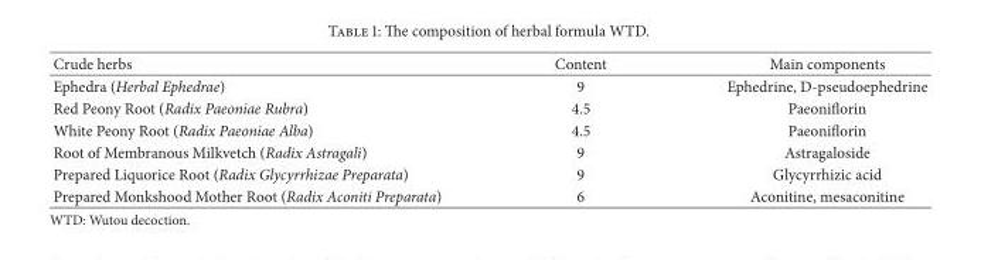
<table><thead><tr><td>Crude herbs</td><td>Content</td><td>Main components</td></tr></thead><tbody><tr><td>Ephedra (Herbal Ephedrae)</td><td>9</td><td>Ephedrine, D-pseudoephedrine</td></tr><tr><td>Red Peony Root (Radix Paeoniae Rubra)</td><td>4.5</td><td>Paeoniflorin</td></tr><tr><td>White Peony Root (Radix Paeoniae Alba)</td><td>4.5</td><td>Paeoniflorin</td></tr><tr><td>Root of Membranous Milkvetch (Radix Astragali)</td><td>9</td><td>Astragaloside</td></tr><tr><td>Prepared Liquorice Root (Radix Glycyrrhizae Preparata)</td><td>9</td><td>Glycyrrhizic acid</td></tr><tr><td>Prepared Monkshood Mother Root (Radix Aconiti Preparata)</td><td>6</td><td>Aconitine, mesaconitine</td></tr></tbody></table>